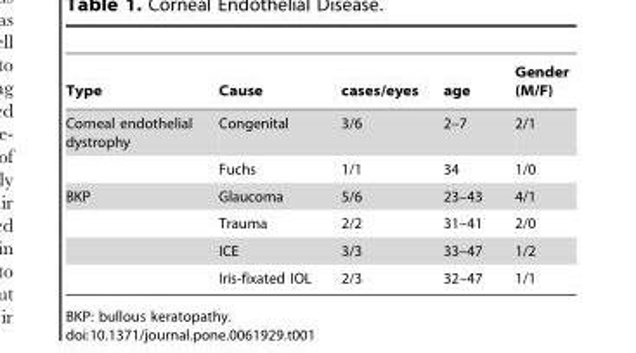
<table><thead><tr><td>Type</td><td>Cause</td><td>cases/eyes</td><td>age</td><td>Gender (M/F)</td></tr></thead><tbody><tr><td rowspan="2">Corneal endothelial dystrophy</td><td>Congenital</td><td>3/6</td><td>2–7</td><td>2/1</td></tr><tr><td>Fuchs</td><td>1/1</td><td>34</td><td>1/0</td></tr><tr><td rowspan="4">BKP</td><td>Glaucoma</td><td>5/6</td><td>23–43</td><td>4/1</td></tr><tr><td>Trauma</td><td>2/2</td><td>31–41</td><td>2/0</td></tr><tr><td>ICE</td><td>3/3</td><td>33–47</td><td>1/2</td></tr><tr><td>Iris-fixated IOL</td><td>2/3</td><td>32–47</td><td>1/1</td></tr></tbody></table>